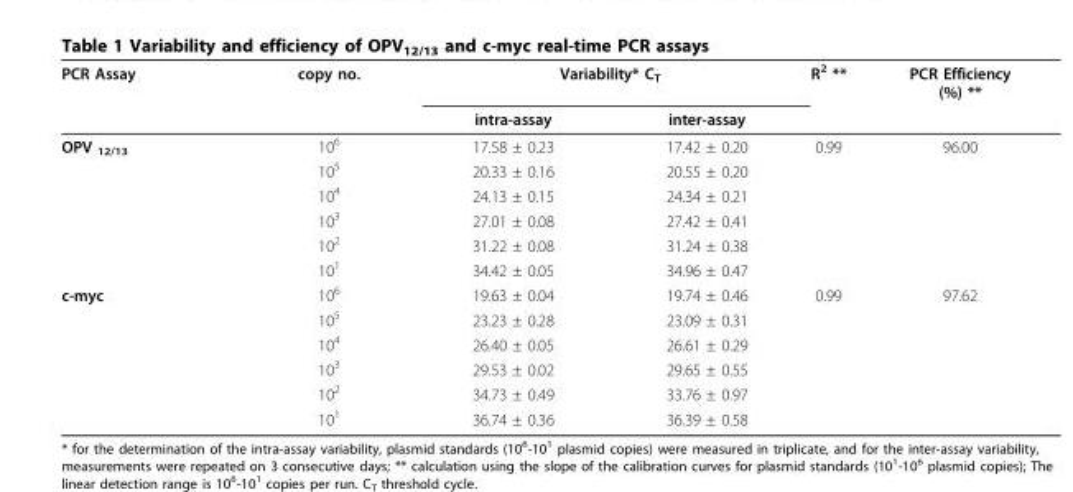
<table><thead><tr><td rowspan="2">PCR Assay</td><td rowspan="2">copy no.</td><td colspan="2">Variability* C<sub>T</sub></td><td rowspan="2">R<sup>2</sup> **</td><td rowspan="2">PCR Efficiency (%) **</td></tr><tr><td>intra-assay</td><td>inter-assay</td></tr></thead><tbody><tr><td rowspan="6">OPV <sub>12/13</sub></td><td>10<sup>6</sup></td><td>17.58 ± 0.23</td><td>17.42 ± 0.20</td><td>0.99</td><td>96.00</td></tr><tr><td>10<sup>5</sup></td><td>20.33 ± 0.16</td><td>20.55 ± 0.20</td><td></td><td></td></tr><tr><td>10<sup>4</sup></td><td>24.13 ± 0.15</td><td>24.34 ± 0.21</td><td></td><td></td></tr><tr><td>10<sup>3</sup></td><td>27.01 ± 0.08</td><td>27.42 ± 0.41</td><td></td><td></td></tr><tr><td>10<sup>2</sup></td><td>31.22 ± 0.08</td><td>31.24 ± 0.38</td><td></td><td></td></tr><tr><td>10<sup>1</sup></td><td>34.42 ± 0.05</td><td>34.96 ± 0.47</td><td></td><td></td></tr><tr><td rowspan="6">c-myc</td><td>10<sup>6</sup></td><td>19.63 ± 0.04</td><td>19.74 ± 0.46</td><td>0.99</td><td>97.62</td></tr><tr><td>10<sup>5</sup></td><td>23.23 ± 0.28</td><td>23.09 ± 0.31</td><td></td><td></td></tr><tr><td>10<sup>4</sup></td><td>26.40 ± 0.05</td><td>26.61 ± 0.29</td><td></td><td></td></tr><tr><td>10<sup>3</sup></td><td>29.53 ± 0.02</td><td>29.65 ± 0.55</td><td></td><td></td></tr><tr><td>10<sup>2</sup></td><td>34.73 ± 0.49</td><td>33.76 ± 0.97</td><td></td><td></td></tr><tr><td>10<sup>1</sup></td><td>36.74 ± 0.36</td><td>36.39 ± 0.58</td><td></td><td></td></tr></tbody></table>